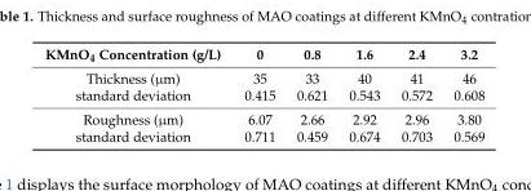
<table><thead><tr><td>KMnO<sub>4</sub> Concentration (g/L)</td><td>0</td><td>0.8</td><td>1.6</td><td>2.4</td><td>3.2</td></tr></thead><tbody><tr><td>Thickness (µm)</td><td>35</td><td>33</td><td>40</td><td>41</td><td>46</td></tr><tr><td>standard deviation</td><td>0.415</td><td>0.621</td><td>0.543</td><td>0.572</td><td>0.608</td></tr><tr><td>Roughness (µm)</td><td>6.07</td><td>2.66</td><td>2.92</td><td>2.96</td><td>3.80</td></tr><tr><td>standard deviation</td><td>0.711</td><td>0.459</td><td>0.674</td><td>0.703</td><td>0.569</td></tr></tbody></table>